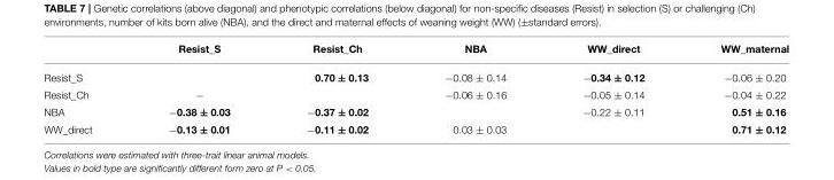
<table><thead><tr><td></td><td>Resist_S</td><td>Resist_Ch</td><td>NBA</td><td>WW_direct</td><td>WW_maternal</td></tr></thead><tbody><tr><td>Resist_S</td><td></td><td>0.70 ± 0.13</td><td>−0.08 ± 0.14</td><td>−0.34 ± 0.12</td><td>−0.06 ± 0.20</td></tr><tr><td>Resist_Ch</td><td>−</td><td></td><td>−0.06 ± 0.16</td><td>−0.05 ± 0.14</td><td>−0.04 ± 0.22</td></tr><tr><td>NBA</td><td>−0.38 ± 0.03</td><td>−0.37 ± 0.02</td><td></td><td>−0.22 ± 0.11</td><td>0.51 ± 0.16</td></tr><tr><td>WW_direct</td><td>−0.13 ± 0.01</td><td>−0.11 ± 0.02</td><td>0.03 ± 0.03</td><td></td><td>0.71 ± 0.12</td></tr></tbody></table>